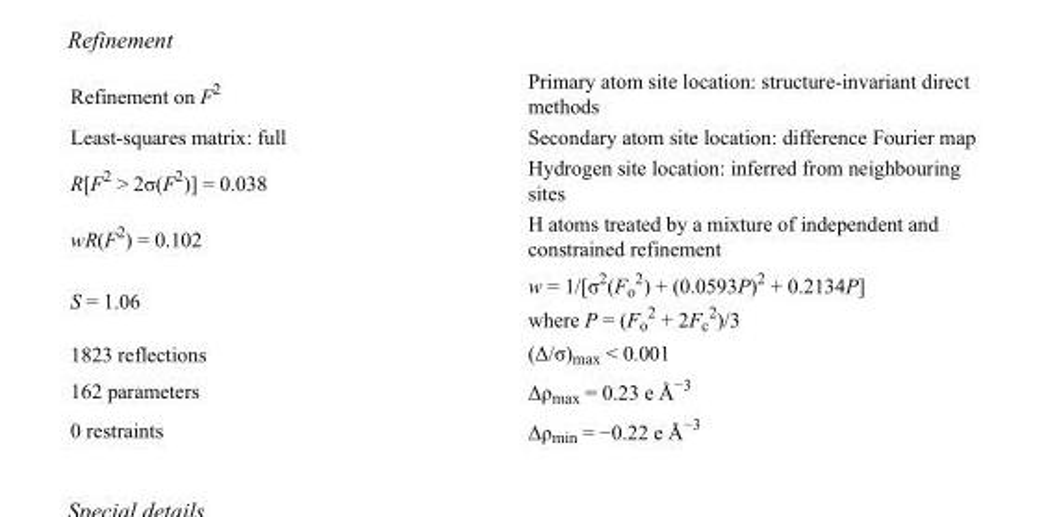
<table><tbody><tr><td>Refinement on F<sup>2</sup></td><td>Primary atom site location: structure-invariant direct methods</td></tr><tr><td>Least-squares matrix: full</td><td>Secondary atom site location: difference Fourier map</td></tr><tr><td>R[F<sup>2</sup> &gt; 2σ(F<sup>2</sup>)] = 0.038</td><td>Hydrogen site location: inferred from neighbouring sites</td></tr><tr><td>wR(F<sup>2</sup>) = 0.102</td><td>H atoms treated by a mixture of independent and constrained refinement</td></tr><tr><td>S = 1.06</td><td>w = 1/[σ<sup>2</sup>(F<sub>o</sub> <sup>2</sup>) + (0.0593P)<sup>2</sup> + 0.2134P] where P = (F<sub>o</sub> <sup>2</sup> + 2F<sub>c</sub> <sup>2</sup>)/3</td></tr><tr><td>1823 reflections</td><td>(Δ/σ)<sub>max</sub> &lt; 0.001</td></tr><tr><td>162 parameters</td><td>Δρ<sub>max</sub> = 0.23 e Å<sup>−3</sup></td></tr><tr><td>0 restraints</td><td>Δρ<sub>min</sub> = −0.22 e Å<sup>−3</sup></td></tr></tbody></table>